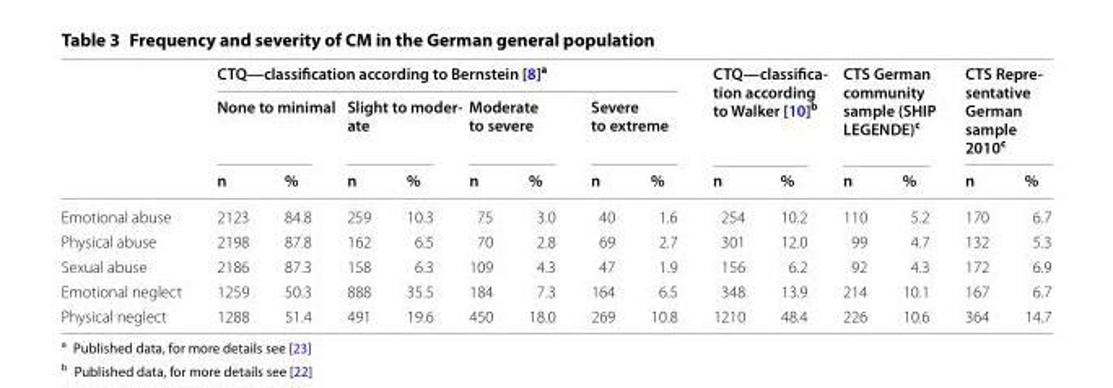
<table><thead><tr><td rowspan="3"></td><td colspan="8">CTQ—classification according to Bernstein [8]<sup>a</sup></td><td rowspan="2" colspan="2">CTQ—classifica- tion according to Walker [10]b</td><td rowspan="2" colspan="2">CTS German community sample (SHIP LEGENDE)<sup>c</sup></td><td rowspan="2" colspan="2">CTS Repre- sentative German sample 2010c</td></tr><tr><td colspan="2">None to minimal</td><td colspan="2">Slight to moder- ate</td><td colspan="2">Moderate to severe</td><td colspan="2">Severe to extreme</td></tr><tr><td>n</td><td>%</td><td>n</td><td>%</td><td>n</td><td>%</td><td>n</td><td>%</td><td>n</td><td>%</td><td>n</td><td>%</td><td>n</td><td>%</td></tr></thead><tbody><tr><td>Emotional abuse</td><td>2123</td><td>84.8</td><td>259</td><td>10.3</td><td>75</td><td>3.0</td><td>40</td><td>1.6</td><td>254</td><td>10.2</td><td>110</td><td>5.2</td><td>170</td><td>6.7</td></tr><tr><td>Physical abuse</td><td>2198</td><td>87.8</td><td>162</td><td>6.5</td><td>70</td><td>2.8</td><td>69</td><td>2.7</td><td>301</td><td>12.0</td><td>99</td><td>4.7</td><td>132</td><td>5.3</td></tr><tr><td>Sexual abuse</td><td>2186</td><td>87.3</td><td>158</td><td>6.3</td><td>109</td><td>4.3</td><td>47</td><td>1.9</td><td>156</td><td>6.2</td><td>92</td><td>4.3</td><td>172</td><td>6.9</td></tr><tr><td>Emotional neglect</td><td>1259</td><td>50.3</td><td>888</td><td>35.5</td><td>184</td><td>7.3</td><td>164</td><td>6.5</td><td>348</td><td>13.9</td><td>214</td><td>10.1</td><td>167</td><td>6.7</td></tr><tr><td>Physical neglect</td><td>1288</td><td>51.4</td><td>491</td><td>19.6</td><td>450</td><td>18.0</td><td>269</td><td>10.8</td><td>1210</td><td>48.4</td><td>226</td><td>10.6</td><td>364</td><td>14.7</td></tr></tbody></table>